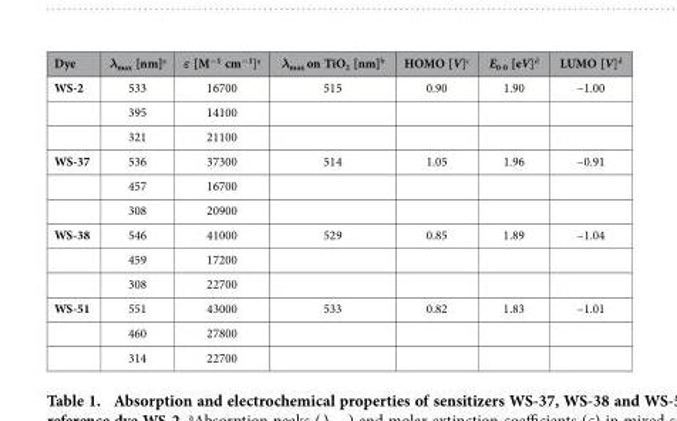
<table><thead><tr><td>Dye</td><td>λ<sub>max</sub> [nm]<sup>a</sup></td><td>ε [M<sup>−1</sup> cm<sup>−1</sup>]<sup>a</sup></td><td>λ<sub>max</sub> on TiO<sub>2</sub> [nm]<sup>b</sup></td><td>HOMO [V]<sup>c</sup></td><td>E<sub>0-0</sub> [eV]<sup>d</sup></td><td>LUMO [V]<sup>d</sup></td></tr></thead><tbody><tr><td rowspan="3">WS-2</td><td>533</td><td>16700</td><td>515</td><td>0.90</td><td>1.90</td><td>–1.00</td></tr><tr><td>395</td><td>14100</td><td></td><td></td><td></td><td></td></tr><tr><td>321</td><td>21100</td><td></td><td></td><td></td><td></td></tr><tr><td rowspan="3">WS-37</td><td>536</td><td>37300</td><td>514</td><td>1.05</td><td>1.96</td><td>–0.91</td></tr><tr><td>457</td><td>16700</td><td></td><td></td><td></td><td></td></tr><tr><td>308</td><td>20900</td><td></td><td></td><td></td><td></td></tr><tr><td rowspan="3">WS-38</td><td>546</td><td>41000</td><td>529</td><td>0.85</td><td>1.89</td><td>–1.04</td></tr><tr><td>459</td><td>17200</td><td></td><td></td><td></td><td></td></tr><tr><td>308</td><td>22700</td><td></td><td></td><td></td><td></td></tr><tr><td rowspan="3">WS-51</td><td>551</td><td>43000</td><td>533</td><td>0.82</td><td>1.83</td><td>–1.01</td></tr><tr><td>460</td><td>27800</td><td></td><td></td><td></td><td></td></tr><tr><td>314</td><td>22700</td><td></td><td></td><td></td><td></td></tr></tbody></table>